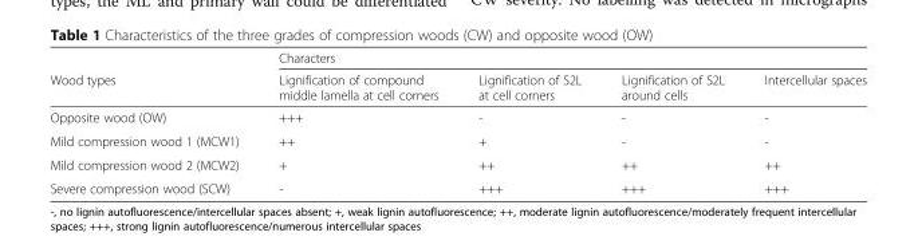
<table><thead><tr><td rowspan="2">Wood types</td><td colspan="4">Characters</td></tr><tr><td>Lignification of compound middle lamella at cell corners</td><td>Lignification of S2L at cell corners</td><td>Lignification of S2L around cells</td><td>Intercellular spaces</td></tr></thead><tbody><tr><td>Opposite wood (OW)</td><td>+++</td><td>-</td><td>-</td><td>-</td></tr><tr><td>Mild compression wood 1 (MCW1)</td><td>++</td><td>+</td><td>-</td><td>-</td></tr><tr><td>Mild compression wood 2 (MCW2)</td><td>+</td><td>++</td><td>++</td><td>++</td></tr><tr><td>Severe compression wood (SCW)</td><td>-</td><td>+++</td><td>+++</td><td>+++</td></tr></tbody></table>